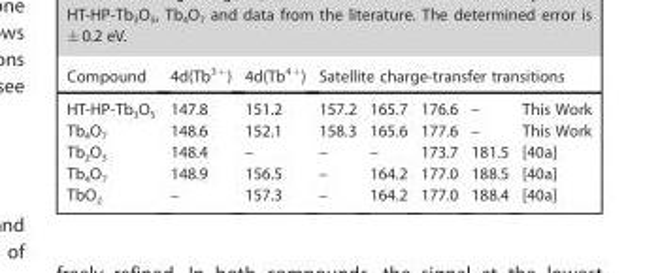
<table><thead><tr><td rowspan="2">Compound HT-HP-Tb<sub>3</sub>O<sub>5</sub></td><td rowspan="2">4d(Tb<sup>3+</sup>) 147.8</td><td rowspan="2">4d(Tb<sup>4+</sup>) 151.2</td><td colspan="5">Satellite charge-transfer transitions</td></tr><tr><td>157.2</td><td>165.7</td><td>176.6</td><td>–</td><td>This Work</td></tr></thead><tbody><tr><td>Tb<sub>4</sub>O<sub>7</sub></td><td>148.6</td><td>152.1</td><td>158.3</td><td>165.6</td><td>177.6</td><td>–</td><td>This Work</td></tr><tr><td>Tb<sub>2</sub>O<sub>3</sub></td><td>148.4</td><td>–</td><td>–</td><td>–</td><td>173.7</td><td>181.5</td><td>[40a]</td></tr><tr><td>Tb<sub>4</sub>O<sub>7</sub></td><td>148.9</td><td>156.5</td><td>–</td><td>164.2</td><td>177.0</td><td>188.5</td><td>[40a]</td></tr><tr><td>TbO<sub>2</sub></td><td>–</td><td>157.3</td><td>–</td><td>164.2</td><td>177.0</td><td>188.4</td><td>[40a]</td></tr></tbody></table>